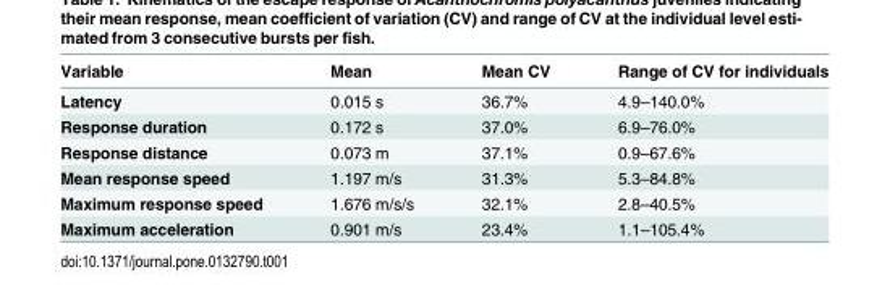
<table><thead><tr><td>Variable</td><td>Mean</td><td>Mean CV</td><td>Range of CV for individuals</td></tr></thead><tbody><tr><td>Latency</td><td>0.015 s</td><td>36.7%</td><td>4.9–140.0%</td></tr><tr><td>Response duration</td><td>0.172 s</td><td>37.0%</td><td>6.9–76.0%</td></tr><tr><td>Response distance</td><td>0.073 m</td><td>37.1%</td><td>0.9–67.6%</td></tr><tr><td>Mean response speed</td><td>1.197 m/s</td><td>31.3%</td><td>5.3–84.8%</td></tr><tr><td>Maximum response speed</td><td>1.676 m/s/s</td><td>32.1%</td><td>2.8–40.5%</td></tr><tr><td>Maximum acceleration</td><td>0.901 m/s</td><td>23.4%</td><td>1.1–105.4%</td></tr></tbody></table>